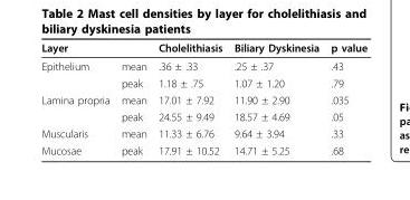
<table><thead><tr><td>Layer</td><td></td><td>Cholelithiasis</td><td>Biliary Dyskinesia</td><td>p value</td></tr></thead><tbody><tr><td rowspan="2">Epithelium</td><td>mean</td><td>.36 ± .33</td><td>.25 ± .37</td><td>.43</td></tr><tr><td>peak</td><td>1.18 ± .75</td><td>1.07 ± 1.20</td><td>.79</td></tr><tr><td rowspan="2">Lamina propria</td><td>mean</td><td>17.01 ± 7.92</td><td>11.90 ± 2.90</td><td>.035</td></tr><tr><td>peak</td><td>24.55 ± 9.49</td><td>18.57 ± 4.69</td><td>.05</td></tr><tr><td>Muscularis</td><td>mean</td><td>11.33 ± 6.76</td><td>9.64 ± 3.94</td><td>.33</td></tr><tr><td>Mucosae</td><td>peak</td><td>17.91 ± 10.52</td><td>14.71 ± 5.25</td><td>.68</td></tr></tbody></table>